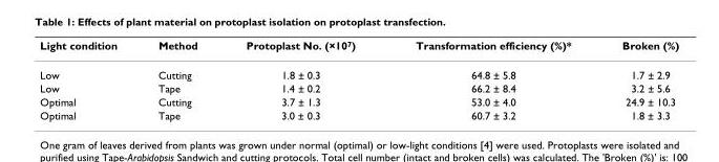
<table><thead><tr><td>Light condition</td><td>Method</td><td>Protoplast No. (×10<sup>7</sup>)</td><td>Transformation efficiency (%)*</td><td>Broken (%)</td></tr></thead><tbody><tr><td>Low</td><td>Cutting</td><td>1.8 ± 0.3</td><td>64.8 ± 5.8</td><td>1.7 ± 2.9</td></tr><tr><td>Low</td><td>Tape</td><td>1.4 ± 0.2</td><td>66.2 ± 8.4</td><td>3.2 ± 5.6</td></tr><tr><td>Optimal</td><td>Cutting</td><td>3.7 ± 1.3</td><td>53.0 ± 4.0</td><td>24.9 ± 10.3</td></tr><tr><td>Optimal</td><td>Tape</td><td>3.0 ± 0.3</td><td>60.7 ± 3.2</td><td>1.8 ± 3.3</td></tr></tbody></table>